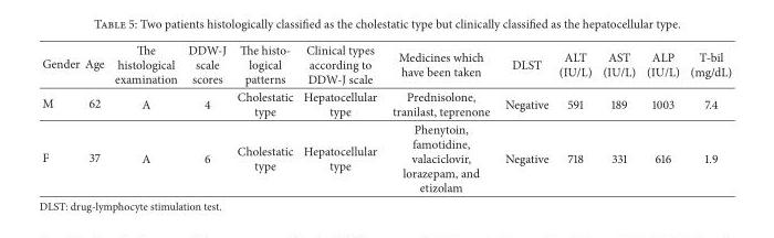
<table><thead><tr><td>Gender</td><td>Age</td><td>The histological examination</td><td>DDW-J scale scores</td><td>The histo- logical patterns</td><td>Clinical types according to DDW-J scale</td><td>Medicines which have been taken</td><td>DLST</td><td>ALT (IU/L)</td><td>AST (IU/L)</td><td>ALP (IU/L)</td><td>T-bil (mg/dL)</td></tr></thead><tbody><tr><td>M</td><td>62</td><td>A</td><td>4</td><td>Cholestatic type</td><td>Hepatocellular type</td><td>Prednisolone, tranilast, teprenone</td><td>Negative</td><td>591</td><td>189</td><td>1003</td><td>7.4</td></tr><tr><td>F</td><td>37</td><td>A</td><td>6</td><td>Cholestatic type</td><td>Hepatocellular type</td><td>Phenytoin, famotidine, valaciclovir, lorazepam, and etizolam</td><td>Negative</td><td>718</td><td>331</td><td>616</td><td>1.9</td></tr></tbody></table>